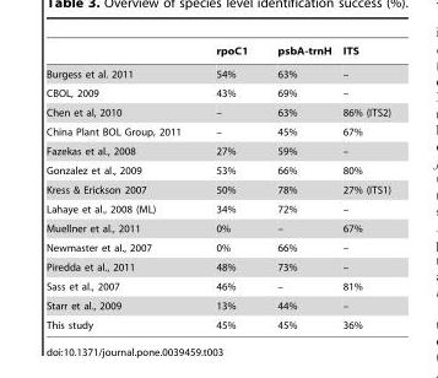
<table><thead><tr><td></td><td>rpoC1</td><td>psbA-trnH</td><td>ITS</td></tr></thead><tbody><tr><td>Burgess et al. 2011</td><td>54%</td><td>63%</td><td>–</td></tr><tr><td>CBOL, 2009</td><td>43%</td><td>69%</td><td>–</td></tr><tr><td>Chen et al, 2010</td><td>–</td><td>63%</td><td>86% (ITS2)</td></tr><tr><td>China Plant BOL Group, 2011</td><td>–</td><td>45%</td><td>67%</td></tr><tr><td>Fazekas et al., 2008</td><td>27%</td><td>59%</td><td>–</td></tr><tr><td>Gonzalez et al., 2009</td><td>53%</td><td>66%</td><td>80%</td></tr><tr><td>Kress &amp; Erickson 2007</td><td>50%</td><td>78%</td><td>27% (ITS1)</td></tr><tr><td>Lahaye et al., 2008 (ML)</td><td>34%</td><td>72%</td><td>–</td></tr><tr><td>Muellner et al., 2011</td><td>0%</td><td>–</td><td>67%</td></tr><tr><td>Newmaster et al., 2007</td><td>0%</td><td>66%</td><td>–</td></tr><tr><td>Piredda et al., 2011</td><td>48%</td><td>73%</td><td>–</td></tr><tr><td>Sass et al., 2007</td><td>46%</td><td>–</td><td>81%</td></tr><tr><td>Starr et al., 2009</td><td>13%</td><td>44%</td><td>–</td></tr><tr><td>This study</td><td>45%</td><td>45%</td><td>36%</td></tr></tbody></table>